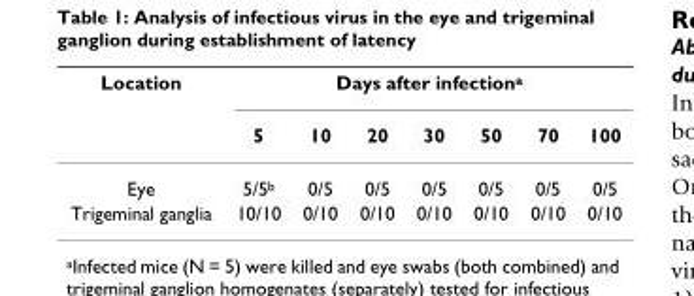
<table><thead><tr><td rowspan="2">Location</td><td colspan="7">Days after infection<sup>a</sup></td></tr><tr><td>5</td><td>10</td><td>20</td><td>30</td><td>50</td><td>70</td><td>100</td></tr></thead><tbody><tr><td>Eye</td><td>5/5<sup>b</sup></td><td>0/5</td><td>0/5</td><td>0/5</td><td>0/5</td><td>0/5</td><td>0/5</td></tr><tr><td>Trigeminal ganglia</td><td>10/10</td><td>0/10</td><td>0/10</td><td>0/10</td><td>0/10</td><td>0/10</td><td>0/10</td></tr></tbody></table>